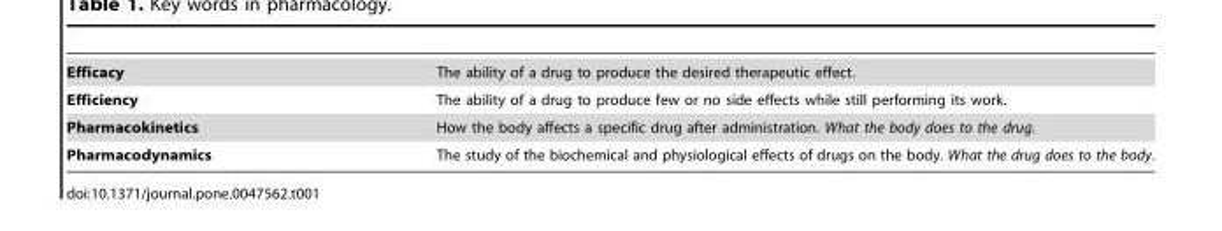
<table><tbody><tr><td>Efficacy</td><td>The ability of a drug to produce the desired therapeutic effect.</td></tr><tr><td>Efficiency</td><td>The ability of a drug to produce few or no side effects while still performing its work.</td></tr><tr><td>Pharmacokinetics</td><td>How the body affects a specific drug after administration. What the body does to the drug.</td></tr><tr><td>Pharmacodynamics</td><td>The study of the biochemical and physiological effects of drugs on the body. What the drug does to the body.</td></tr></tbody></table>